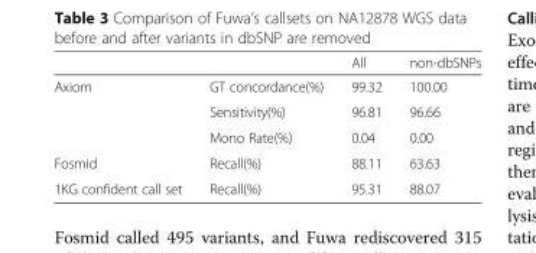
<table><thead><tr><td></td><td></td><td>All</td><td>non-dbSNPs</td></tr></thead><tbody><tr><td rowspan="3">Axiom</td><td>GT concordance(%)</td><td>99.32</td><td>100.00</td></tr><tr><td>Sensitivity(%)</td><td>96.81</td><td>96.66</td></tr><tr><td>Mono Rate(%)</td><td>0.04</td><td>0.00</td></tr><tr><td>Fosmid</td><td>Recall(%)</td><td>88.11</td><td>63.63</td></tr><tr><td>1KG confident call set</td><td>Recall(%)</td><td>95.31</td><td>88.07</td></tr></tbody></table>